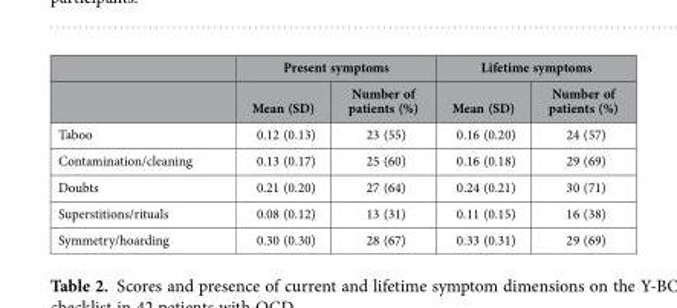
<table><thead><tr><td rowspan="2"></td><td colspan="2">Present symptoms</td><td colspan="2">Lifetime symptoms</td></tr><tr><td>Mean (SD)</td><td>Number of patients (%)</td><td>Mean (SD)</td><td>Number of patients (%)</td></tr></thead><tbody><tr><td>Taboo</td><td>0.12 (0.13)</td><td>23 (55)</td><td>0.16 (0.20)</td><td>24 (57)</td></tr><tr><td>Contamination/cleaning</td><td>0.13 (0.17)</td><td>25 (60)</td><td>0.16 (0.18)</td><td>29 (69)</td></tr><tr><td>Doubts</td><td>0.21 (0.20)</td><td>27 (64)</td><td>0.24 (0.21)</td><td>30 (71)</td></tr><tr><td>Superstitions/rituals</td><td>0.08 (0.12)</td><td>13 (31)</td><td>0.11 (0.15)</td><td>16 (38)</td></tr><tr><td>Symmetry/hoarding</td><td>0.30 (0.30)</td><td>28 (67)</td><td>0.33 (0.31)</td><td>29 (69)</td></tr></tbody></table>